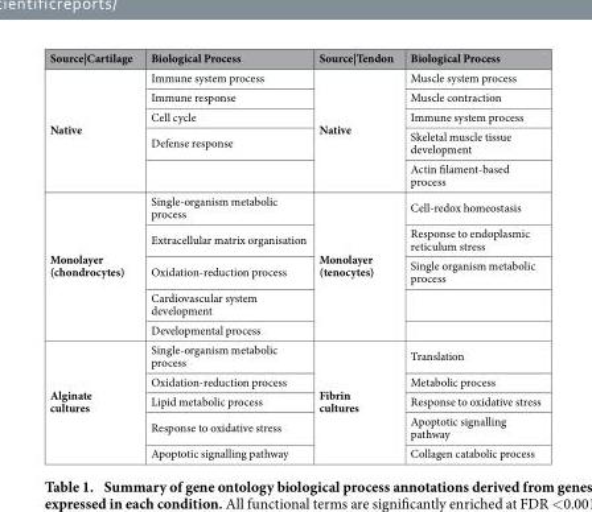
<table><thead><tr><td>Source|Cartilage</td><td>Biological Process</td><td>Source|Tendon</td><td>Biological Process</td></tr></thead><tbody><tr><td rowspan="5">Native</td><td>Immune system process</td><td rowspan="5">Native</td><td>Muscle system process</td></tr><tr><td>Immune response</td><td>Muscle contraction</td></tr><tr><td>Cell cycle</td><td>Immune system process</td></tr><tr><td>Defense response</td><td>Skeletal muscle tissue development</td></tr><tr><td></td><td>Actin filament-based process</td></tr><tr><td rowspan="5">Monolayer (chondrocytes)</td><td>Single-organism metabolic process</td><td rowspan="5">Monolayer (tenocytes)</td><td>Cell-redox homeostasis</td></tr><tr><td>Extracellular matrix organisation</td><td>Response to endoplasmic reticulum stress</td></tr><tr><td>Oxidation-reduction process</td><td>Single organism metabolic process</td></tr><tr><td>Cardiovascular system development</td><td></td></tr><tr><td>Developmental process</td><td></td></tr><tr><td rowspan="5">Alginate cultures</td><td>Single-organism metabolic process</td><td rowspan="5">Fibrin cultures</td><td>Translation</td></tr><tr><td>Oxidation-reduction process</td><td>Metabolic process</td></tr><tr><td>Lipid metabolic process</td><td>Response to oxidative stress</td></tr><tr><td>Response to oxidative stress</td><td>Apoptotic signalling pathway</td></tr><tr><td>Apoptotic signalling pathway</td><td>Collagen catabolic process</td></tr></tbody></table>